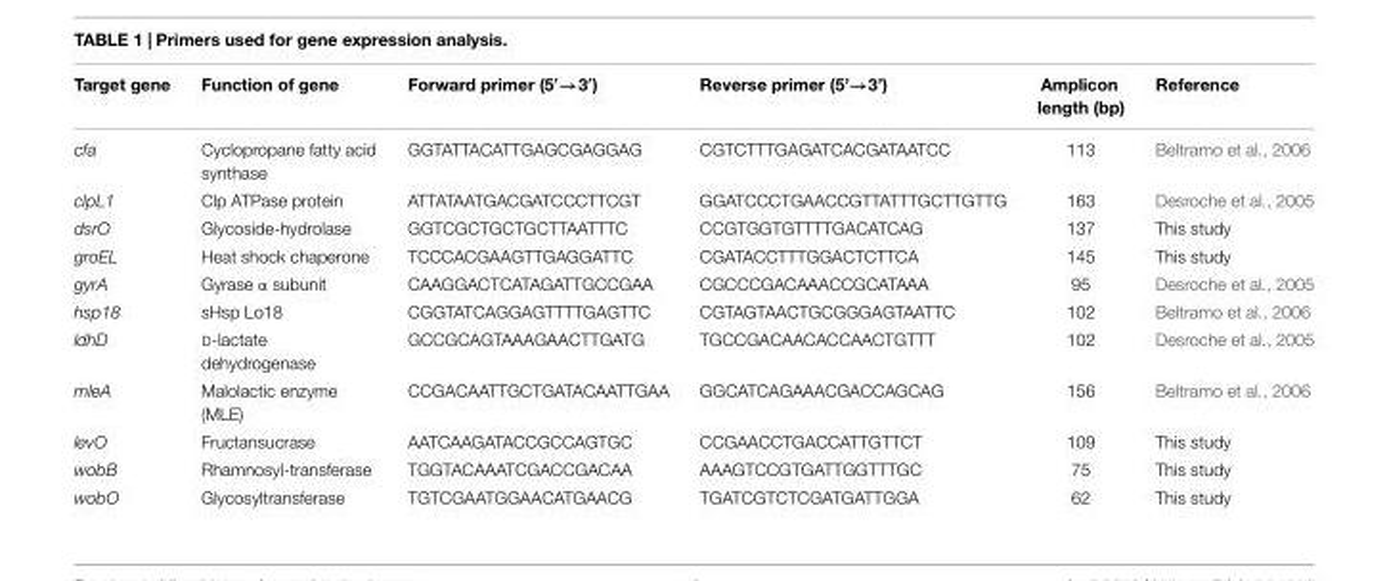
<table><thead><tr><td>Target gene</td><td>Function of gene</td><td>Forward primer (5′→3′)</td><td>Reverse primer (5’→3’)</td><td>Amplicon length (bp)</td><td>Reference</td></tr></thead><tbody><tr><td>cfa</td><td>Cyclopropane fatty acid synthase</td><td>GGTATTACATTGAGCGAGGAG</td><td>CGTCTTTGAGATCACGATAATCC</td><td>113</td><td>Beltramo et al., 2006</td></tr><tr><td>clpL1</td><td>Clp ATPase protein</td><td>ATTATAATGACGATCCCTTCGT</td><td>GGATCCCTGAACCGTTATTTGCTTGTTG</td><td>163</td><td>Desroche et al., 2005</td></tr><tr><td>dsrO</td><td>Glycoside-hydrolase</td><td>GGTCGCTGCTGCTTAATTTC</td><td>CCGTGGTGTTTTGACATCAG</td><td>137</td><td>This study</td></tr><tr><td>groEL</td><td>Heat shock chaperone</td><td>TCCCACGAAGTTGAGGATTC</td><td>CGATACCTTTGGACTCTTCA</td><td>145</td><td>This study</td></tr><tr><td>gyrA</td><td>Gyrase α subunit</td><td>CAAGGACTCATAGATTGCCGAA</td><td>CGCCCGACAAACCGCATAAA</td><td>95</td><td>Desroche et al., 2005</td></tr><tr><td>hsp18</td><td>sHsp Lo18</td><td>CGGTATCAGGAGTTTTGAGTTC</td><td>CGTAGTAACTGCGGGAGTAATTC</td><td>102</td><td>Beltramo et al., 2006</td></tr><tr><td>ldhD</td><td>D-lactate dehydrogenase</td><td>GCCGCAGTAAAGAACTTGATG</td><td>TGCCGACAACACCAACTGTTT</td><td>102</td><td>Desroche et al., 2005</td></tr><tr><td>mleA</td><td>Malolactic enzyme (MLE)</td><td>CCGACAATTGCTGATACAATTGAA</td><td>GGCATCAGAAACGACCAGCAG</td><td>156</td><td>Beltramo et al., 2006</td></tr><tr><td>levO</td><td>Fructansucrase</td><td>AATCAAGATACCGCCAGTGC</td><td>CCGAACCTGACCATTGTTCT</td><td>109</td><td>This study</td></tr><tr><td>wobB</td><td>Rhamnosyl-transferase</td><td>TGGTACAAATCGACCGACAA</td><td>AAAGTCCGTGATTGGTTTGC</td><td>75</td><td>This study</td></tr><tr><td>wobO</td><td>Glycosyltransferase</td><td>TGTCGAATGGAACATGAACG</td><td>TGATCGTCTCGATGATTGGA</td><td>62</td><td>This study</td></tr></tbody></table>